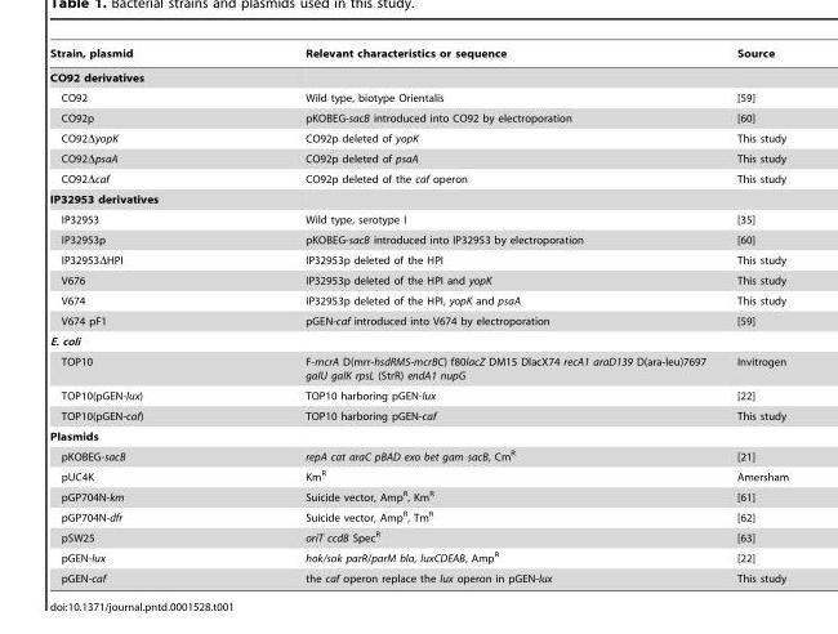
<table><thead><tr><td>Strain, plasmid</td><td>Relevant characteristics or sequence</td><td>Source</td></tr></thead><tbody><tr><td colspan="3">CO92 derivatives</td></tr><tr><td>CO92</td><td>Wild type, biotype Orientalis</td><td>[59]</td></tr><tr><td>CO92p</td><td>pKOBEG-sacB introduced into CO92 by electroporation</td><td>[60]</td></tr><tr><td>CO92ΔyopK</td><td>CO92p deleted of yopK</td><td>This study</td></tr><tr><td>CO92ΔpsaA</td><td>CO92p deleted of psaA</td><td>This study</td></tr><tr><td>CO92Δcaf</td><td>CO92p deleted of the caf operon</td><td>This study</td></tr><tr><td colspan="3">IP32953 derivatives</td></tr><tr><td>IP32953</td><td>Wild type, serotype I</td><td>[35]</td></tr><tr><td>IP32953p</td><td>pKOBEG-sacB introduced into IP32953 by electroporation</td><td>[60]</td></tr><tr><td>IP32953ΔHPI</td><td>IP32953p deleted of the HPI</td><td>This study</td></tr><tr><td>V676</td><td>IP32953p deleted of the HPI and yopK</td><td>This study</td></tr><tr><td>V674</td><td>IP32953p deleted of the HPI, yopK and psaA</td><td>This study</td></tr><tr><td>V674 pF1</td><td>pGEN-caf introduced into V674 by electroporation</td><td>[59]</td></tr><tr><td colspan="3">E. coli</td></tr><tr><td>TOP10</td><td>F-mcrA D(mrr-hsdRMS-mcrBC) f80lacZ DM15 DlacX74 recA1 araD139 D(ara-leu)7697 galU galK rpsL (StrR) endA1 nupG</td><td>Invitrogen</td></tr><tr><td>TOP10(pGEN-lux)</td><td>TOP10 harboring pGEN-lux</td><td>[22]</td></tr><tr><td>TOP10(pGEN-caf)</td><td>TOP10 harboring pGEN-caf</td><td>This study</td></tr><tr><td colspan="3">Plasmids</td></tr><tr><td>pKOBEG-sacB</td><td>repA cat araC pBAD exo bet gam sacB, Cm<sup>R</sup></td><td>[21]</td></tr><tr><td>pUC4K</td><td>Km<sup>R</sup></td><td>Amersham</td></tr><tr><td>pGP704N-km</td><td>Suicide vector, Amp<sup>R</sup>, Km<sup>R</sup></td><td>[61]</td></tr><tr><td>pGP704N-dfr</td><td>Suicide vector, Amp<sup>R</sup>, Tm<sup>R</sup></td><td>[62]</td></tr><tr><td>pSW25</td><td>oriT ccdB Spec<sup>R</sup></td><td>[63]</td></tr><tr><td>pGEN-lux</td><td>hok/sok parR/parM bla, luxCDEAB, Amp<sup>R</sup></td><td>[22]</td></tr><tr><td>pGEN-caf</td><td>the caf operon replace the lux operon in pGEN-lux</td><td>This study</td></tr></tbody></table>